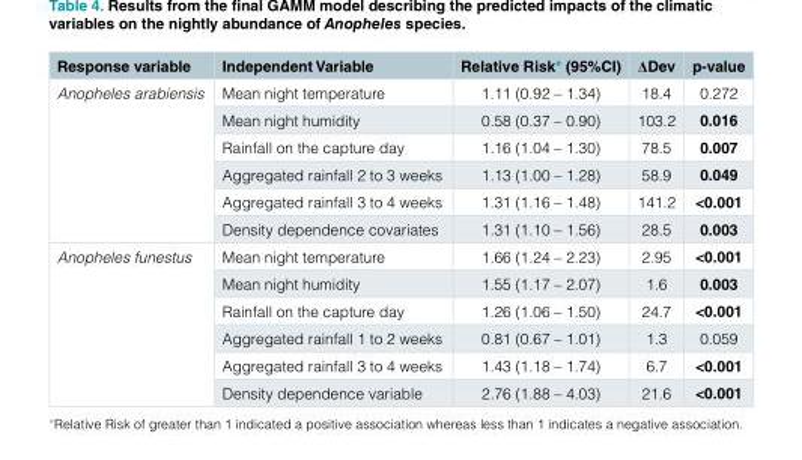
<table><thead><tr><td>Response variable</td><td>Independent Variable</td><td>Relative Risk* (95%CI)</td><td>ΔDev</td><td>p-value</td></tr></thead><tbody><tr><td rowspan="6">Anopheles arabiensis</td><td>Mean night temperature</td><td>1.11 (0.92 – 1.34)</td><td>18.4</td><td>0.272</td></tr><tr><td>Mean night humidity</td><td>0.58 (0.37 – 0.90)</td><td>103.2</td><td>0.016</td></tr><tr><td>Rainfall on the capture day</td><td>1.16 (1.04 – 1.30)</td><td>78.5</td><td>0.007</td></tr><tr><td>Aggregated rainfall 2 to 3 weeks</td><td>1.13 (1.00 – 1.28)</td><td>58.9</td><td>0.049</td></tr><tr><td>Aggregated rainfall 3 to 4 weeks</td><td>1.31 (1.16 – 1.48)</td><td>141.2</td><td>&lt;0.001</td></tr><tr><td>Density dependence covariates</td><td>1.31 (1.10 – 1.56)</td><td>28.5</td><td>0.003</td></tr><tr><td rowspan="6">Anopheles funestus</td><td>Mean night temperature</td><td>1.66 (1.24 – 2.23)</td><td>2.95</td><td>&lt;0.001</td></tr><tr><td>Mean night humidity</td><td>1.55 (1.17 – 2.07)</td><td>1.6</td><td>0.003</td></tr><tr><td>Rainfall on the capture day</td><td>1.26 (1.06 – 1.50)</td><td>24.7</td><td>&lt;0.001</td></tr><tr><td>Aggregated rainfall 1 to 2 weeks</td><td>0.81 (0.67 – 1.01)</td><td>1.3</td><td>0.059</td></tr><tr><td>Aggregated rainfall 3 to 4 weeks</td><td>1.43 (1.18 – 1.74)</td><td>6.7</td><td>&lt;0.001</td></tr><tr><td>Density dependence variable</td><td>2.76 (1.88 – 4.03)</td><td>21.6</td><td>&lt;0.001</td></tr></tbody></table>